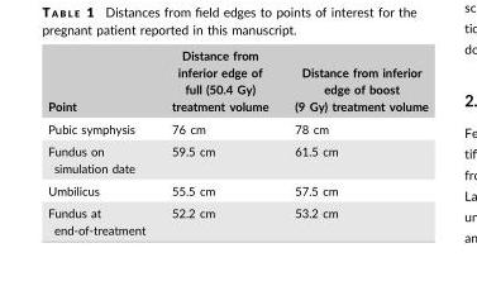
<table><thead><tr><td>Point</td><td>Distance from inferior edge of full (50.4 Gy) treatment volume</td><td>Distance from inferior edge of boost (9 Gy) treatment volume</td></tr></thead><tbody><tr><td>Pubic symphysis</td><td>76 cm</td><td>78 cm</td></tr><tr><td>Fundus on simulation date</td><td>59.5 cm</td><td>61.5 cm</td></tr><tr><td>Umbilicus</td><td>55.5 cm</td><td>57.5 cm</td></tr><tr><td>Fundus at end-of-treatment</td><td>52.2 cm</td><td>53.2 cm</td></tr></tbody></table>